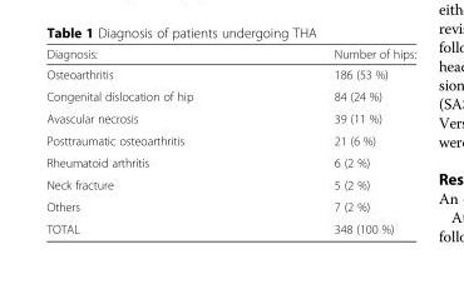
<table><thead><tr><td>Diagnosis:</td><td>Number of hips:</td></tr></thead><tbody><tr><td>Osteoarthritis</td><td>186 (53 %)</td></tr><tr><td>Congenital dislocation of hip</td><td>84 (24 %)</td></tr><tr><td>Avascular necrosis</td><td>39 (11 %)</td></tr><tr><td>Posttraumatic osteoarthritis</td><td>21 (6 %)</td></tr><tr><td>Rheumatoid arthritis</td><td>6 (2 %)</td></tr><tr><td>Neck fracture</td><td>5 (2 %)</td></tr><tr><td>Others</td><td>7 (2 %)</td></tr><tr><td>TOTAL</td><td>348 (100 %)</td></tr></tbody></table>